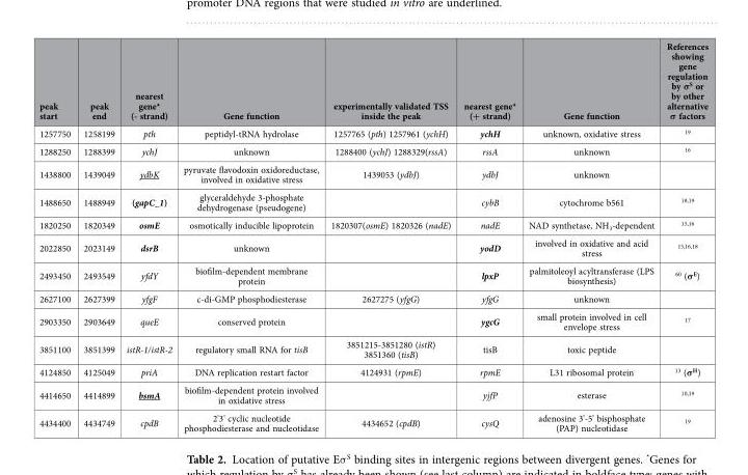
<table><thead><tr><td>peak start</td><td>peak end</td><td>nearest gene* (- strand)</td><td>Gene function</td><td>experimentally validated TSS inside the peak</td><td>nearest gene* (+ strand)</td><td>Gene function</td><td>References showing gene regulation by σ<sup>S</sup> or by other alternative σ factors</td></tr></thead><tbody><tr><td>1257750</td><td>1258199</td><td>pth</td><td>peptidyl-tRNA hydrolase</td><td>1257765 (pth) 1257961 (ychH)</td><td>ychH</td><td>unknown, oxidative stress</td><td>19</td></tr><tr><td>1288250</td><td>1288399</td><td>ychJ</td><td>unknown</td><td>1288400 (ychJ) 1288329(rssA)</td><td>rssA</td><td>unknown</td><td>16</td></tr><tr><td>1438800</td><td>1439049</td><td>ydbK</td><td>pyruvate flavodoxin oxidoreductase, involved in oxidative stress</td><td>1439053 (ydbJ)</td><td>ydbJ</td><td>unknown</td><td></td></tr><tr><td>1488650</td><td>1488949</td><td>(gapC_1)</td><td>glyceraldehyde 3-phosphate dehydrogenase (pseudogene)</td><td></td><td>cybB</td><td>cytochrome b561</td><td>18,19</td></tr><tr><td>1820250</td><td>1820349</td><td>osmE</td><td>osmotically inducible lipoprotein</td><td>1820307(osmE) 1820326 (nadE)</td><td>nadE</td><td>NAD synthetase, NH<sub>3</sub>-dependent</td><td>15,16</td></tr><tr><td>2022850</td><td>2023149</td><td>dsrB</td><td>unknown</td><td></td><td>yodD</td><td>involved in oxidative and acid stress</td><td>15,16,18</td></tr><tr><td>2493450</td><td>2493549</td><td>yfdY</td><td>biofilm-dependent membrane protein</td><td></td><td>lpxP</td><td>palmitoleoyl acyltransferase (LPS biosynthesis)</td><td>60 (σ<sup>E</sup>)</td></tr><tr><td>2627100</td><td>2627399</td><td>yfgF</td><td>c-di-GMP phosphodiesterase</td><td>2627275 (yfgG)</td><td>yfgG</td><td>unknown</td><td></td></tr><tr><td>2903350</td><td>2903649</td><td>queE</td><td>conserved protein</td><td></td><td>ygcG</td><td>small protein involved in cell envelope stress</td><td>17</td></tr><tr><td>3851100</td><td>3851399</td><td>istR-1/istR-2</td><td>regulatory small RNA for tisB</td><td>3851215-3851280 (istR) 3851360 (tisB)</td><td>tisB</td><td>toxic peptide</td><td></td></tr><tr><td>4124850</td><td>4125049</td><td>priA</td><td>DNA replication restart factor</td><td>4124931 (rpmE)</td><td>rpmE</td><td>L31 ribosomal protein</td><td>13 (σ<sup>H</sup>)</td></tr><tr><td>4414650</td><td>4414899</td><td>bsmA</td><td>biofilm-dependent protein involved in oxidative stress</td><td></td><td>yjfP</td><td>esterase</td><td>10,19</td></tr><tr><td>4434400</td><td>4434749</td><td>cpdB</td><td>2&#x27;3&#x27; cyclic nucleotide phosphodiesterase and nucleotidase</td><td>4434652 (cpdB)</td><td>cysQ</td><td>adenosine 3&#x27;-5&#x27; bisphosphate (PAP) nucleotidase</td><td>19</td></tr></tbody></table>